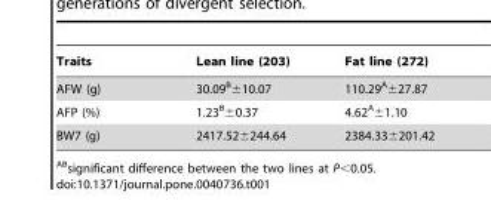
<table><thead><tr><td>Traits</td><td>Lean line (203)</td><td>Fat line (272)</td></tr></thead><tbody><tr><td>AFW (g)</td><td>30.09<sup>B</sup>±10.07</td><td>110.29<sup>A</sup>±27.87</td></tr><tr><td>AFP (%)</td><td>1.23<sup>B</sup>±0.37</td><td>4.62<sup>A</sup>±1.10</td></tr><tr><td>BW7 (g)</td><td>2417.52±244.64</td><td>2384.33±201.42</td></tr></tbody></table>